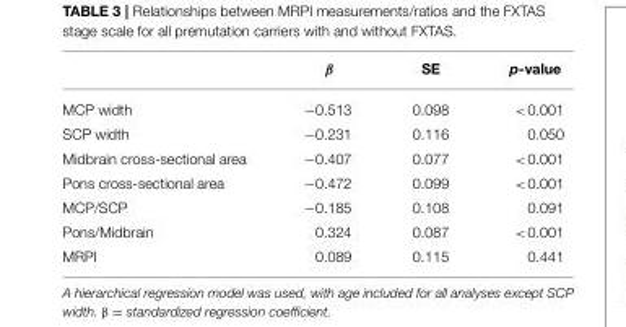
<table><thead><tr><td></td><td>β</td><td>SE</td><td>p-value</td></tr></thead><tbody><tr><td>MCP width</td><td>−0.513</td><td>0.098</td><td>&lt;0.001</td></tr><tr><td>SCP width</td><td>−0.231</td><td>0.116</td><td>0.050</td></tr><tr><td>Midbrain cross-sectional area</td><td>−0.407</td><td>0.077</td><td>&lt;0.001</td></tr><tr><td>Pons cross-sectional area</td><td>−0.472</td><td>0.099</td><td>&lt;0.001</td></tr><tr><td>MCP/SCP</td><td>−0.185</td><td>0.108</td><td>0.091</td></tr><tr><td>Pons/Midbrain</td><td>0.324</td><td>0.087</td><td>&lt;0.001</td></tr><tr><td>MRPI</td><td>0.089</td><td>0.115</td><td>0.441</td></tr></tbody></table>